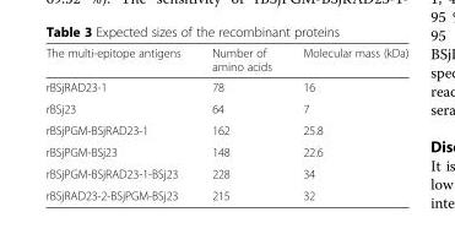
<table><thead><tr><td>The multi-epitope antigens</td><td>Number of amino acids</td><td>Molecular mass (kDa)</td></tr></thead><tbody><tr><td>rBSjRAD23-1</td><td>78</td><td>16</td></tr><tr><td>rBSj23</td><td>64</td><td>7</td></tr><tr><td>rBSjPGM-BSjRAD23-1</td><td>162</td><td>25.8</td></tr><tr><td>rBSjPGM-BSj23</td><td>148</td><td>22.6</td></tr><tr><td>rBSjPGM-BSjRAD23-1-BSj23</td><td>228</td><td>34</td></tr><tr><td>rBSjRAD23-2-BSjPGM-BSj23</td><td>215</td><td>32</td></tr></tbody></table>